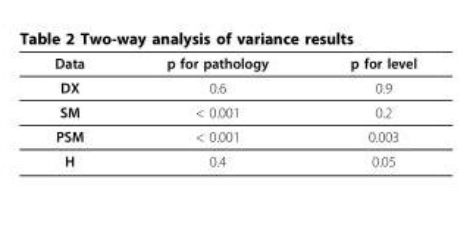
<table><thead><tr><td>Data</td><td>p for pathology</td><td>p for level</td></tr></thead><tbody><tr><td>DX</td><td>0.6</td><td>0.9</td></tr><tr><td>SM</td><td>&lt; 0.001</td><td>0.2</td></tr><tr><td>PSM</td><td>&lt; 0.001</td><td>0.003</td></tr><tr><td>H</td><td>0.4</td><td>0.05</td></tr></tbody></table>